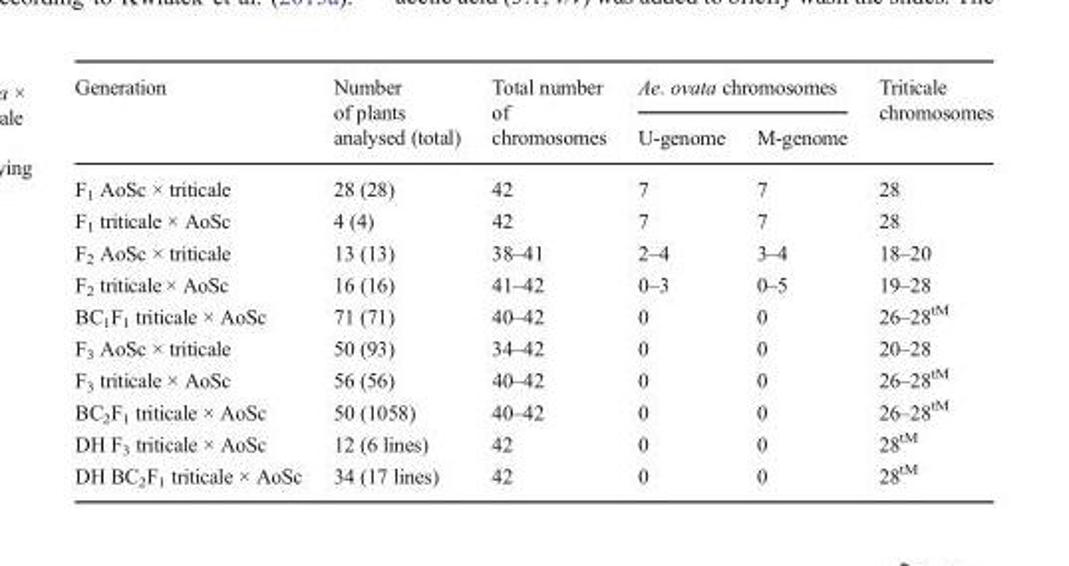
<table><thead><tr><td rowspan="2">Generation</td><td rowspan="2">Number of plants analysed (total)</td><td rowspan="2">Total number of chromosomes</td><td colspan="2">Ae. ovata chromosomes</td><td rowspan="2">Triticale chromosomes</td></tr><tr><td>U-genome</td><td>M-genome</td></tr></thead><tbody><tr><td>F<sub>1</sub> AoSc × triticale</td><td>28 (28)</td><td>42</td><td>7</td><td>7</td><td>28</td></tr><tr><td>F<sub>1</sub> triticale × AoSc</td><td>4 (4)</td><td>42</td><td>7</td><td>7</td><td>28</td></tr><tr><td>F<sub>2</sub> AoSc × triticale</td><td>13 (13)</td><td>38–41</td><td>2–4</td><td>3–4</td><td>18–20</td></tr><tr><td>F<sub>2</sub> triticale × AoSc</td><td>16 (16)</td><td>41–42</td><td>0–3</td><td>0–5</td><td>19–28</td></tr><tr><td>BC<sub>1</sub>F<sub>1</sub> triticale × AoSc</td><td>71 (71)</td><td>40–42</td><td>0</td><td>0</td><td>26–28<sup>tM</sup></td></tr><tr><td>F<sub>3</sub> AoSc × triticale</td><td>50 (93)</td><td>34–42</td><td>0</td><td>0</td><td>20–28</td></tr><tr><td>F<sub>3</sub> triticale × AoSc</td><td>56 (56)</td><td>40–42</td><td>0</td><td>0</td><td>26–28<sup>tM</sup></td></tr><tr><td>BC<sub>2</sub>F<sub>1</sub> triticale × AoSc</td><td>50 (1058)</td><td>40–42</td><td>0</td><td>0</td><td>26–28<sup>tM</sup></td></tr><tr><td>DH F<sub>3</sub> triticale × AoSc</td><td>12 (6 lines)</td><td>42</td><td>0</td><td>0</td><td>28<sup>tM</sup></td></tr><tr><td>DH BC<sub>2</sub>F<sub>1</sub> triticale × AoSc</td><td>34 (17 lines)</td><td>42</td><td>0</td><td>0</td><td>28<sup>tM</sup></td></tr></tbody></table>